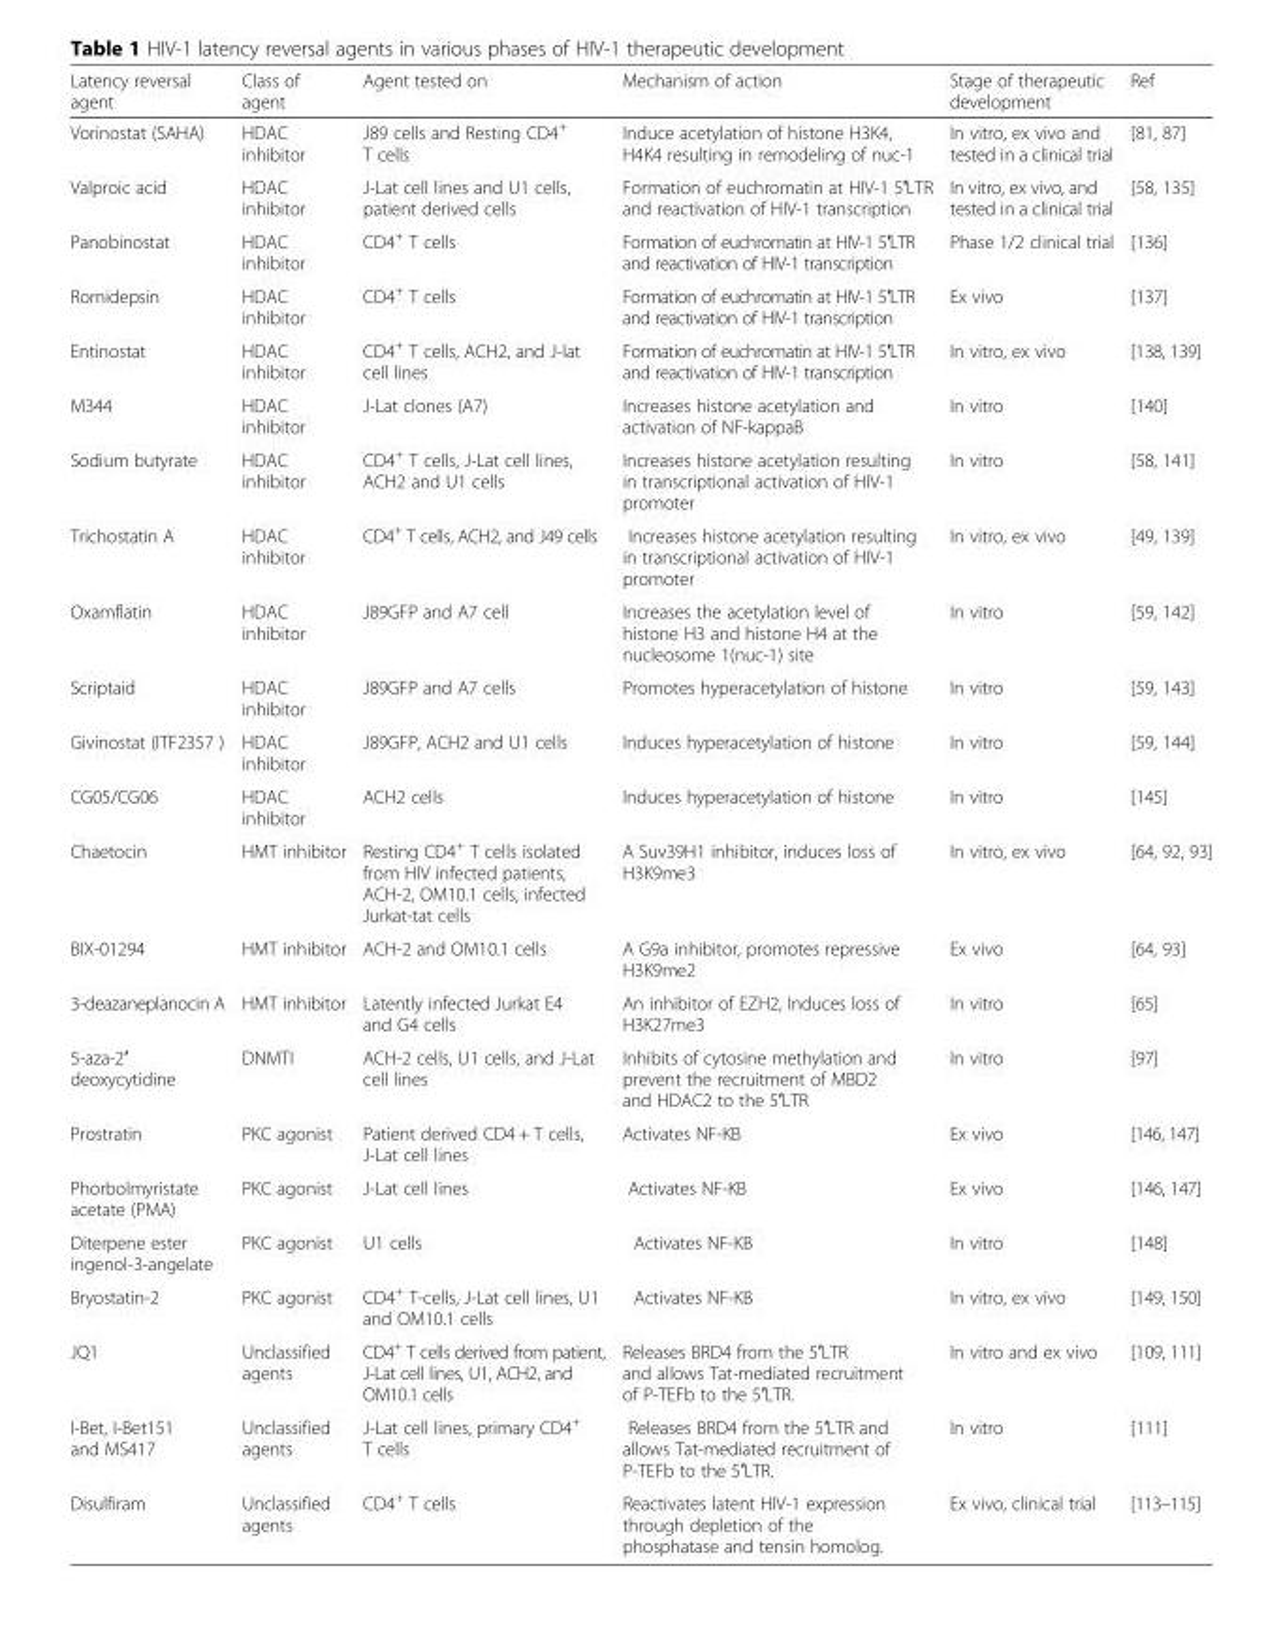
<table><thead><tr><td>Latency reversal agent</td><td>Class of agent</td><td>Agent tested on</td><td>Mechanism of action</td><td>Stage of therapeutic development</td><td>Ref</td></tr></thead><tbody><tr><td>Vorinostat (SAHA)</td><td>HDAC inhibitor</td><td>J89 cells and Resting CD4<sup>+</sup> T cells</td><td>Induce acetylation of histone H3K4, H4K4 resulting in remodeling of nuc-1</td><td>In vitro, ex vivo and tested in a clinical trial</td><td>[81, 87]</td></tr><tr><td>Valproic acid</td><td>HDAC inhibitor</td><td>J-Lat cell lines and U1 cells, patient derived cells</td><td>Formation of euchromatin at HIV-1 5′LTR and reactivation of HIV-1 transcription</td><td>In vitro, ex vivo, and tested in a clinical trial</td><td>[58, 135]</td></tr><tr><td>Panobinostat</td><td>HDAC inhibitor</td><td>CD4<sup>+</sup> T cells</td><td>Formation of euchromatin at HIV-1 5′LTR and reactivation of HIV-1 transcription</td><td>Phase 1/2 clinical trial</td><td>[136]</td></tr><tr><td>Romidepsin</td><td>HDAC inhibitor</td><td>CD4<sup>+</sup> T cells</td><td>Formation of euchromatin at HIV-1 5′LTR and reactivation of HIV-1 transcription</td><td>Ex vivo</td><td>[137]</td></tr><tr><td>Entinostat</td><td>HDAC inhibitor</td><td>CD4<sup>+</sup> T cells, ACH2, and J-lat cell lines</td><td>Formation of euchromatin at HIV-1 5′LTR and reactivation of HIV-1 transcription</td><td>In vitro, ex vivo</td><td>[138, 139]</td></tr><tr><td>M344</td><td>HDAC inhibitor</td><td>J-Lat clones (A7)</td><td>Increases histone acetylation and activation of NF-kappaB</td><td>In vitro</td><td>[140]</td></tr><tr><td>Sodium butyrate</td><td>HDAC inhibitor</td><td>CD4<sup>+</sup> T cells, J-Lat cell lines, ACH2 and U1 cells</td><td>Increases histone acetylation resulting in transcriptional activation of HIV-1 promoter</td><td>In vitro</td><td>[58, 141]</td></tr><tr><td>Trichostatin A</td><td>HDAC inhibitor</td><td>CD4<sup>+</sup> T cells, ACH2, and J49 cells</td><td>Increases histone acetylation resulting in transcriptional activation of HIV-1 promoter</td><td>In vitro, ex vivo</td><td>[49, 139]</td></tr><tr><td>Oxamflatin</td><td>HDAC inhibitor</td><td>J89GFP and A7 cell</td><td>Increases the acetylation level of histone H3 and histone H4 at the nucleosome 1(nuc-1) site</td><td>In vitro</td><td>[59, 142]</td></tr><tr><td>Scriptaid</td><td>HDAC inhibitor</td><td>J89GFP and A7 cells</td><td>Promotes hyperacetylation of histone</td><td>In vitro</td><td>[59, 143]</td></tr><tr><td>Givinostat (ITF2357 )</td><td>HDAC inhibitor</td><td>J89GFP, ACH2 and U1 cells</td><td>Induces hyperacetylation of histone</td><td>In vitro</td><td>[59, 144]</td></tr><tr><td>CG05/CG06</td><td>HDAC inhibitor</td><td>ACH2 cells</td><td>Induces hyperacetylation of histone</td><td>In vitro</td><td>[145]</td></tr><tr><td>Chaetocin</td><td>HMT inhibitor</td><td>Resting CD4<sup>+</sup> T cells isolated from HIV infected patients, ACH-2, OM10.1 cells, infected Jurkat-tat cells</td><td>A Suv39H1 inhibitor, induces loss of H3K9me3</td><td>In vitro, ex vivo</td><td>[64, 92, 93]</td></tr><tr><td>BIX-01294</td><td>HMT inhibitor</td><td>ACH-2 and OM10.1 cells</td><td>A G9a inhibitor, promotes repressive H3K9me2</td><td>Ex vivo</td><td>[64, 93]</td></tr><tr><td>3-deazaneplanocin A</td><td>HMT inhibitor</td><td>Latently infected Jurkat E4 and G4 cells</td><td>An inhibitor of EZH2, Induces loss of H3K27me3</td><td>In vitro</td><td>[65]</td></tr><tr><td>5-aza-2′ deoxycytidine</td><td>DNMTI</td><td>ACH-2 cells, U1 cells, and J-Lat cell lines</td><td>Inhibits of cytosine methylation and prevent the recruitment of MBD2 and HDAC2 to the 5′LTR</td><td>In vitro</td><td>[97]</td></tr><tr><td>Prostratin</td><td>PKC agonist</td><td>Patient derived CD4 + T cells, J-Lat cell lines</td><td>Activates NF-KB</td><td>Ex vivo</td><td>[146, 147]</td></tr><tr><td>Phorbolmyristate acetate (PMA)</td><td>PKC agonist</td><td>J-Lat cell lines</td><td>Activates NF-KB</td><td>Ex vivo</td><td>[146, 147]</td></tr><tr><td>Diterpene ester ingenol-3-angelate</td><td>PKC agonist</td><td>U1 cells</td><td>Activates NF-KB</td><td>In vitro</td><td>[148]</td></tr><tr><td>Bryostatin-2</td><td>PKC agonist</td><td>CD4<sup>+</sup> T-cells, J-Lat cell lines, U1 and OM10.1 cells</td><td>Activates NF-KB</td><td>In vitro, ex vivo</td><td>[149, 150]</td></tr><tr><td>JQ1</td><td>Unclassified agents</td><td>CD4<sup>+</sup> T cells derived from patient, J-Lat cell lines, U1, ACH2, and OM10.1 cells</td><td>Releases BRD4 from the 5′LTR and allows Tat-mediated recruitment of P-TEFb to the 5′LTR.</td><td>In vitro and ex vivo</td><td>[109, 111]</td></tr><tr><td>I-Bet, I-Bet151 and MS417</td><td>Unclassified agents</td><td>J-Lat cell lines, primary CD4<sup>+</sup> T cells</td><td>Releases BRD4 from the 5′LTR and allows Tat-mediated recruitment of P-TEFb to the 5′LTR.</td><td>In vitro</td><td>[111]</td></tr><tr><td>Disulfiram</td><td>Unclassified agents</td><td>CD4<sup>+</sup> T cells</td><td>Reactivates latent HIV-1 expression through depletion of the phosphatase and tensin homolog.</td><td>Ex vivo, clinical trial</td><td>[113–115]</td></tr></tbody></table>